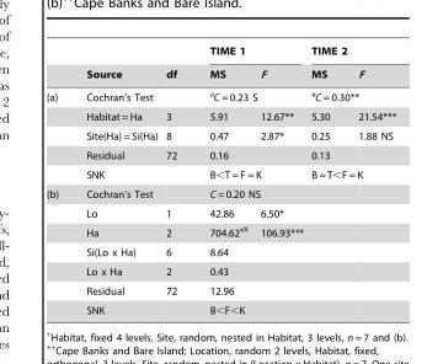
<table><thead><tr><td rowspan="2"></td><td rowspan="2">Source</td><td rowspan="2">df</td><td colspan="2">TIME 1</td><td colspan="2">TIME 2</td></tr><tr><td>MS</td><td>F</td><td>MS</td><td>F</td></tr></thead><tbody><tr><td rowspan="5">(a)</td><td>Cochran’s Test</td><td></td><td colspan="2">aC = 0.23 S</td><td colspan="2">aC = 0.30**</td></tr><tr><td>Habitat = Ha</td><td>3</td><td>5.91</td><td>12.67**</td><td>5.30</td><td>21.54***</td></tr><tr><td>Site(Ha) = Si(Ha)</td><td>8</td><td>0.47</td><td>2.87*</td><td>0.25</td><td>1.88 NS</td></tr><tr><td>Residual</td><td>72</td><td>0.16</td><td></td><td>0.13</td><td></td></tr><tr><td>SNK</td><td></td><td colspan="2">B&lt;T = F = K</td><td colspan="2">B = T&lt;F = K</td></tr><tr><td rowspan="7">(b)</td><td>Cochran’s Test</td><td></td><td colspan="2">C = 0.20 NS</td><td></td><td></td></tr><tr><td>Lo</td><td>1</td><td>42.86</td><td>6.50*</td><td></td><td></td></tr><tr><td>Ha</td><td>2</td><td>704.62<sup>xX</sup></td><td>106.93***</td><td></td><td></td></tr><tr><td>Si(Lo x Ha)</td><td>6</td><td>8.64</td><td></td><td></td><td></td></tr><tr><td>Lo x Ha</td><td>2</td><td>0.43</td><td></td><td></td><td></td></tr><tr><td>Residual</td><td>72</td><td>12.96</td><td></td><td></td><td></td></tr><tr><td>SNK</td><td></td><td colspan="2">B&lt;F&lt;K</td><td></td><td></td></tr></tbody></table>